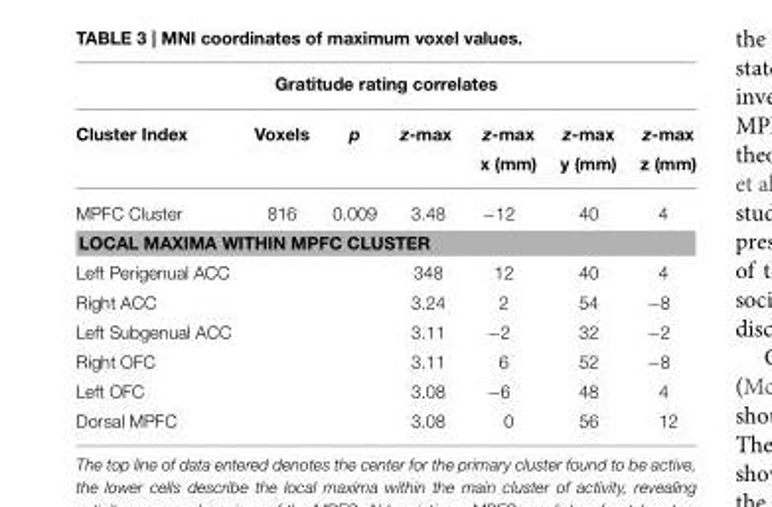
<table><thead><tr><td colspan="7">Gratitude rating correlates</td></tr><tr><td rowspan="2">Cluster Index</td><td rowspan="2">Voxels</td><td rowspan="2">p</td><td rowspan="2">z-max</td><td rowspan="2">z-max x (mm)</td><td rowspan="2">z-max y (mm)</td><td rowspan="2">z-max z (mm)</td></tr><tr></tr></thead><tbody><tr><td>MPFC Cluster</td><td>816</td><td>0.009</td><td>3.48</td><td>−12</td><td>40</td><td>4</td></tr><tr><td colspan="7">LOCAL MAXIMA WITHIN MPFC CLUSTER</td></tr><tr><td>Left Perigenual ACC</td><td></td><td></td><td>348</td><td>12</td><td>40</td><td>4</td></tr><tr><td>Right ACC</td><td></td><td></td><td>3.24</td><td>2</td><td>54</td><td>−8</td></tr><tr><td>Left Subgenual ACC</td><td></td><td></td><td>3.11</td><td>−2</td><td>32</td><td>−2</td></tr><tr><td>Right OFC</td><td></td><td></td><td>3.11</td><td>6</td><td>52</td><td>−8</td></tr><tr><td>Left OFC</td><td></td><td></td><td>3.08</td><td>−6</td><td>48</td><td>4</td></tr><tr><td>Dorsal MPFC</td><td></td><td></td><td>3.08</td><td>0</td><td>56</td><td>12</td></tr></tbody></table>